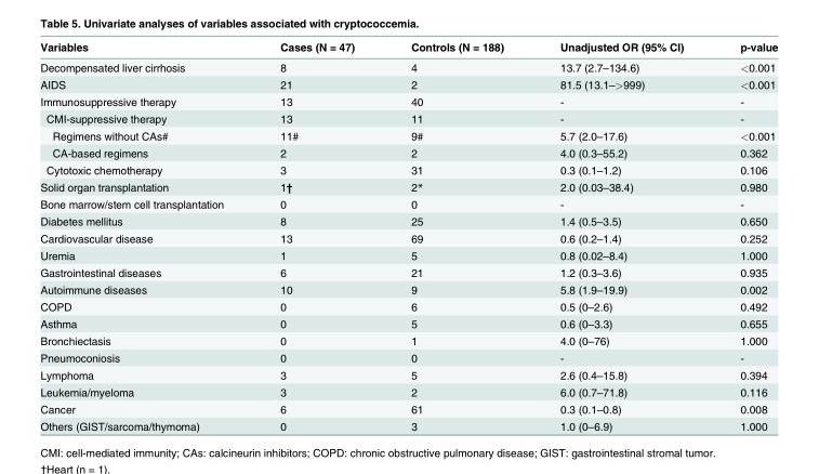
<table><thead><tr><td>Variables</td><td>Cases (N = 47)</td><td>Controls (N = 188)</td><td>Unadjusted OR (95% CI)</td><td>p-value</td></tr></thead><tbody><tr><td>Decompensated liver cirrhosis</td><td>8</td><td>4</td><td>13.7 (2.7–134.6)</td><td>&lt;0.001</td></tr><tr><td>AIDS</td><td>21</td><td>2</td><td>81.5 (13.1–&gt;999)</td><td>&lt;0.001</td></tr><tr><td>Immunosuppressive therapy</td><td>13</td><td>40</td><td>-</td><td>-</td></tr><tr><td>CMI-suppressive therapy</td><td>13</td><td>11</td><td>-</td><td>-</td></tr><tr><td>Regimens without CAs#</td><td>11#</td><td>9#</td><td>5.7 (2.0–17.6)</td><td>&lt;0.001</td></tr><tr><td>CA-based regimens</td><td>2</td><td>2</td><td>4.0 (0.3–55.2)</td><td>0.362</td></tr><tr><td>Cytotoxic chemotherapy</td><td>3</td><td>31</td><td>0.3 (0.1–1.2)</td><td>0.106</td></tr><tr><td>Solid organ transplantation</td><td>1†</td><td>2*</td><td>2.0 (0.03–38.4)</td><td>0.980</td></tr><tr><td>Bone marrow/stem cell transplantation</td><td>0</td><td>0</td><td>-</td><td>-</td></tr><tr><td>Diabetes mellitus</td><td>8</td><td>25</td><td>1.4 (0.5–3.5)</td><td>0.650</td></tr><tr><td>Cardiovascular disease</td><td>13</td><td>69</td><td>0.6 (0.2–1.4)</td><td>0.252</td></tr><tr><td>Uremia</td><td>1</td><td>5</td><td>0.8 (0.02–8.4)</td><td>1.000</td></tr><tr><td>Gastrointestinal diseases</td><td>6</td><td>21</td><td>1.2 (0.3–3.6)</td><td>0.935</td></tr><tr><td>Autoimmune diseases</td><td>10</td><td>9</td><td>5.8 (1.9–19.9)</td><td>0.002</td></tr><tr><td>COPD</td><td>0</td><td>6</td><td>0.5 (0–2.6)</td><td>0.492</td></tr><tr><td>Asthma</td><td>0</td><td>5</td><td>0.6 (0–3.3)</td><td>0.655</td></tr><tr><td>Bronchiectasis</td><td>0</td><td>1</td><td>4.0 (0–76)</td><td>1.000</td></tr><tr><td>Pneumoconiosis</td><td>0</td><td>0</td><td>-</td><td>-</td></tr><tr><td>Lymphoma</td><td>3</td><td>5</td><td>2.6 (0.4–15.8)</td><td>0.394</td></tr><tr><td>Leukemia/myeloma</td><td>3</td><td>2</td><td>6.0 (0.7–71.8)</td><td>0.116</td></tr><tr><td>Cancer</td><td>6</td><td>61</td><td>0.3 (0.1–0.8)</td><td>0.008</td></tr><tr><td>Others (GIST/sarcoma/thymoma)</td><td>0</td><td>3</td><td>1.0 (0–6.9)</td><td>1.000</td></tr></tbody></table>